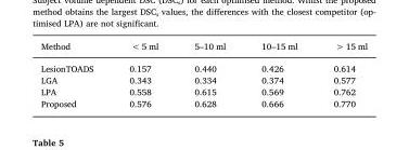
<table><thead><tr><td>Method</td><td>&lt; 5 ml</td><td>5–10 ml</td><td>10–15 ml</td><td>&gt; 15 ml</td></tr></thead><tbody><tr><td>LesionTOADS</td><td>0.157</td><td>0.440</td><td>0.426</td><td>0.614</td></tr><tr><td>LGA</td><td>0.343</td><td>0.334</td><td>0.374</td><td>0.577</td></tr><tr><td>LPA</td><td>0.558</td><td>0.615</td><td>0.569</td><td>0.762</td></tr><tr><td>Proposed</td><td>0.576</td><td>0.628</td><td>0.666</td><td>0.770</td></tr></tbody></table>